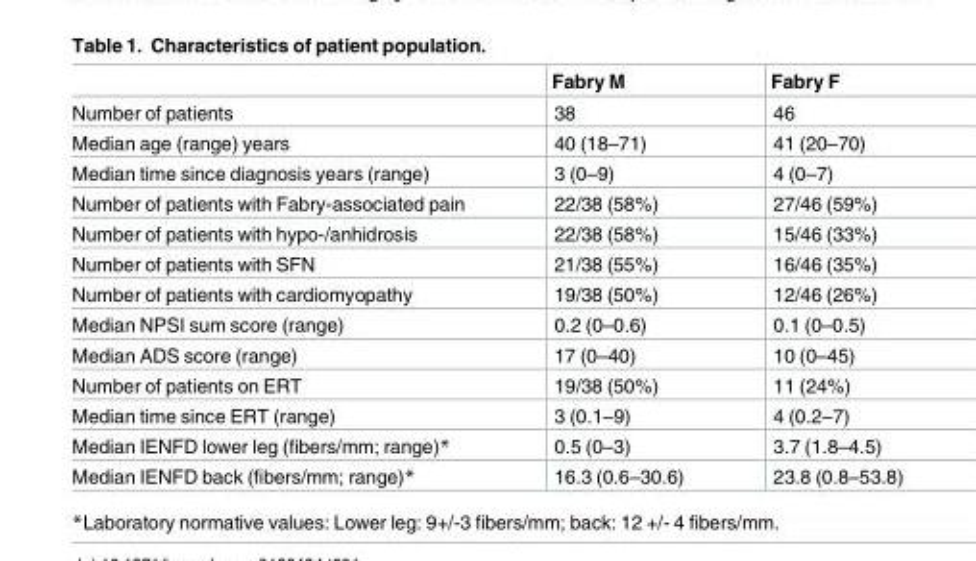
<table><thead><tr><td></td><td>Fabry M</td><td>Fabry F</td></tr></thead><tbody><tr><td>Number of patients</td><td>38</td><td>46</td></tr><tr><td>Median age (range) years</td><td>40 (18–71)</td><td>41 (20–70)</td></tr><tr><td>Median time since diagnosis years (range)</td><td>3 (0–9)</td><td>4 (0–7)</td></tr><tr><td>Number of patients with Fabry-associated pain</td><td>22/38 (58%)</td><td>27/46 (59%)</td></tr><tr><td>Number of patients with hypo-/anhidrosis</td><td>22/38 (58%)</td><td>15/46 (33%)</td></tr><tr><td>Number of patients with SFN</td><td>21/38 (55%)</td><td>16/46 (35%)</td></tr><tr><td>Number of patients with cardiomyopathy</td><td>19/38 (50%)</td><td>12/46 (26%)</td></tr><tr><td>Median NPSI sum score (range)</td><td>0.2 (0–0.6)</td><td>0.1 (0–0.5)</td></tr><tr><td>Median ADS score (range)</td><td>17 (0–40)</td><td>10 (0–45)</td></tr><tr><td>Number of patients on ERT</td><td>19/38 (50%)</td><td>11 (24%)</td></tr><tr><td>Median time since ERT (range)</td><td>3 (0.1–9)</td><td>4 (0.2–7)</td></tr><tr><td>Median IENFD lower leg (fibers/mm; range)*</td><td>0.5 (0–3)</td><td>3.7 (1.8–4.5)</td></tr><tr><td>Median IENFD back (fibers/mm; range)*</td><td>16.3 (0.6–30.6)</td><td>23.8 (0.8–53.8)</td></tr></tbody></table>